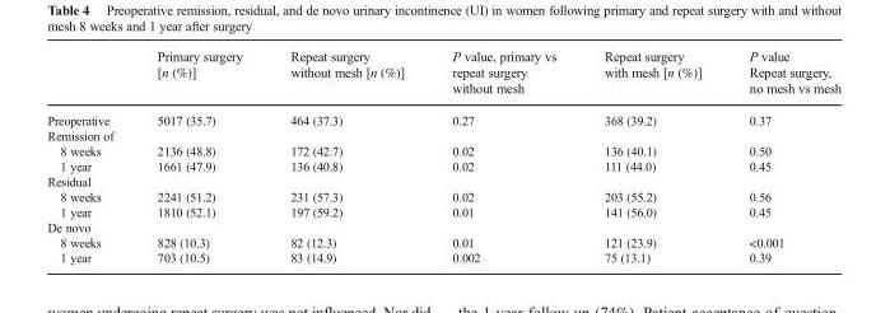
<table><thead><tr><td></td><td>Primary surgery [n (%)]</td><td>Repeat surgery without mesh [n (%)]</td><td>P value, primary vs repeat surgery without mesh</td><td>Repeat surgery with mesh [n (%)]</td><td>P value Repeat surgery, no mesh vs mesh</td></tr></thead><tbody><tr><td>Preoperative</td><td>5017 (35.7)</td><td>464 (37.3)</td><td>0.27</td><td>368 (39.2)</td><td>0.37</td></tr><tr><td colspan="6">Remission of</td></tr><tr><td>8 weeks</td><td>2136 (48.8)</td><td>172 (42.7)</td><td>0.02</td><td>136 (40.1)</td><td>0.50</td></tr><tr><td>1 year</td><td>1661 (47.9)</td><td>136 (40.8)</td><td>0.02</td><td>111 (44.0)</td><td>0.45</td></tr><tr><td colspan="6">Residual</td></tr><tr><td>8 weeks</td><td>2241 (51.2)</td><td>231 (57.3)</td><td>0.02</td><td>203 (55.2)</td><td>0.56</td></tr><tr><td>1 year</td><td>1810 (52.1)</td><td>197 (59.2)</td><td>0.01</td><td>141 (56.0)</td><td>0.45</td></tr><tr><td colspan="6">De novo</td></tr><tr><td>8 weeks</td><td>828 (10.3)</td><td>82 (12.3)</td><td>0.01</td><td>121 (23.9)</td><td>&lt;0.001</td></tr><tr><td>1 year</td><td>703 (10.5)</td><td>83 (14.9)</td><td>0.002</td><td>75 (13.1)</td><td>0.39</td></tr></tbody></table>